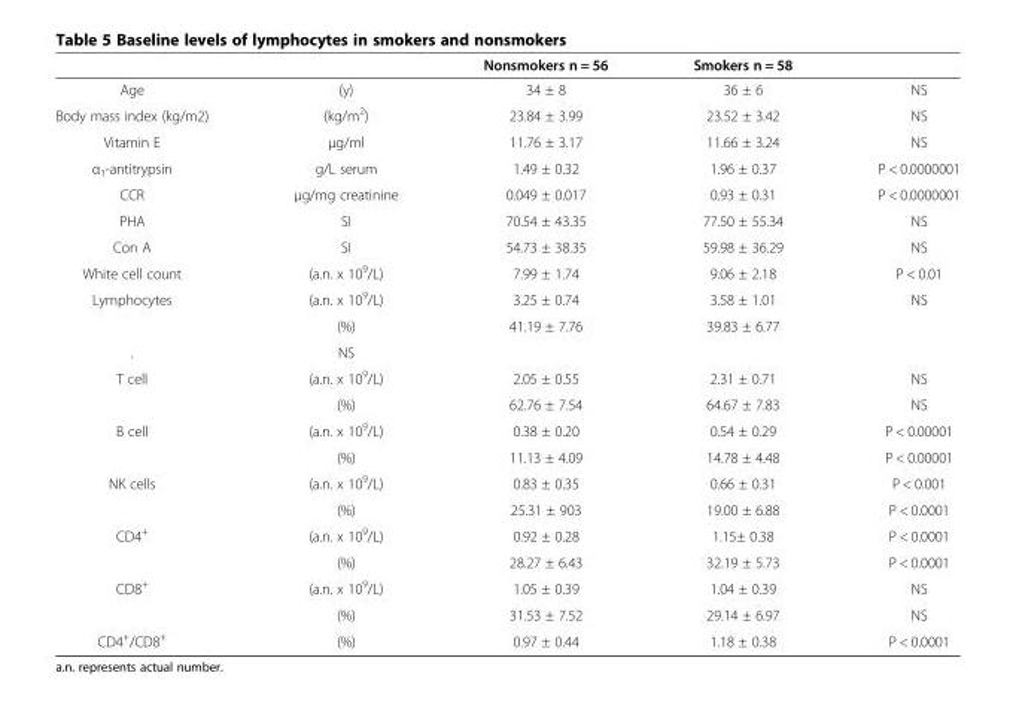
<table><thead><tr><td></td><td></td><td>Nonsmokers n = 56</td><td>Smokers n = 58</td><td></td></tr></thead><tbody><tr><td>Age</td><td>(y)</td><td>34 ± 8</td><td>36 ± 6</td><td>NS</td></tr><tr><td>Body mass index (kg/m2)</td><td>(kg/m<sup>2</sup>)</td><td>23.84 ± 3.99</td><td>23.52 ± 3.42</td><td>NS</td></tr><tr><td>Vitamin E</td><td>μg/ml</td><td>11.76 ± 3.17</td><td>11.66 ± 3.24</td><td>NS</td></tr><tr><td>α<sub>1</sub>-antitrypsin</td><td>g/L serum</td><td>1.49 ± 0.32</td><td>1.96 ± 0.37</td><td>P &lt; 0.0000001</td></tr><tr><td>CCR</td><td>μg/mg creatinine</td><td>0.049 ± 0.017</td><td>0.93 ± 0.31</td><td>P &lt; 0.0000001</td></tr><tr><td>PHA</td><td>SI</td><td>70.54 ± 43.35</td><td>77.50 ± 55.34</td><td>NS</td></tr><tr><td>Con A</td><td>SI</td><td>54.73 ± 38.35</td><td>59.98 ± 36.29</td><td>NS</td></tr><tr><td>White cell count</td><td>(a.n. x 10<sup>9</sup>/L)</td><td>7.99 ± 1.74</td><td>9.06 ± 2.18</td><td>P &lt; 0.01</td></tr><tr><td rowspan="2">Lymphocytes</td><td>(a.n. x 10<sup>9</sup>/L)</td><td>3.25 ± 0.74</td><td>3.58 ± 1.01</td><td>NS</td></tr><tr><td>(%)</td><td>41.19 ± 7.76</td><td>39.83 ± 6.77</td><td></td></tr><tr><td>.</td><td>NS</td><td></td><td></td><td></td></tr><tr><td rowspan="2">T cell</td><td>(a.n. x 10<sup>9</sup>/L)</td><td>2.05 ± 0.55</td><td>2.31 ± 0.71</td><td>NS</td></tr><tr><td>(%)</td><td>62.76 ± 7.54</td><td>64.67 ± 7.83</td><td>NS</td></tr><tr><td rowspan="2">B cell</td><td>(a.n. x 10<sup>9</sup>/L)</td><td>0.38 ± 0.20</td><td>0.54 ± 0.29</td><td>P &lt; 0.00001</td></tr><tr><td>(%)</td><td>11.13 ± 4.09</td><td>14.78 ± 4.48</td><td>P &lt; 0.00001</td></tr><tr><td rowspan="2">NK cells</td><td>(a.n. x 10<sup>9</sup>/L)</td><td>0.83 ± 0.35</td><td>0.66 ± 0.31</td><td>P &lt; 0.001</td></tr><tr><td>(%)</td><td>25.31 ± 903</td><td>19.00 ± 6.88</td><td>P &lt; 0.0001</td></tr><tr><td rowspan="2">CD4<sup>+</sup></td><td>(a.n. x 10<sup>9</sup>/L)</td><td>0.92 ± 0.28</td><td>1.15± 0.38</td><td>P &lt; 0.0001</td></tr><tr><td>(%)</td><td>28.27 ± 6.43</td><td>32.19 ± 5.73</td><td>P &lt; 0.0001</td></tr><tr><td rowspan="2">CD8<sup>+</sup></td><td>(a.n. x 10<sup>9</sup>/L)</td><td>1.05 ± 0.39</td><td>1.04 ± 0.39</td><td>NS</td></tr><tr><td>(%)</td><td>31.53 ± 7.52</td><td>29.14 ± 6.97</td><td>NS</td></tr><tr><td>CD4<sup>+</sup>/CD8<sup>+</sup></td><td>(%)</td><td>0.97 ± 0.44</td><td>1.18 ± 0.38</td><td>P &lt; 0.0001</td></tr></tbody></table>